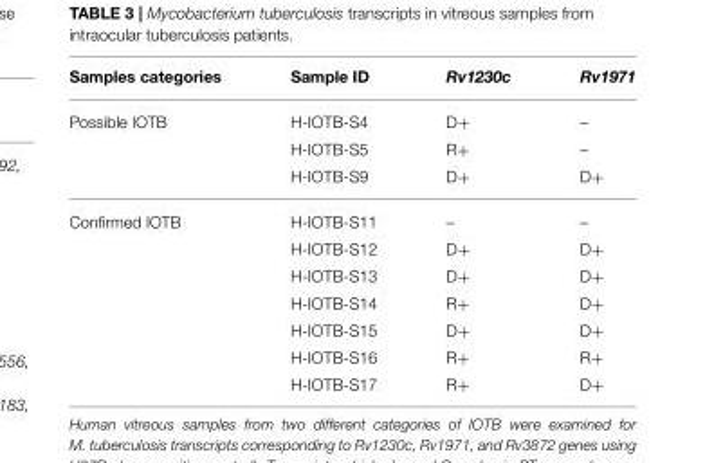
<table><thead><tr><td>Samples categories</td><td>Sample ID</td><td>Rv1230c</td><td>Rv1971</td></tr></thead><tbody><tr><td rowspan="3">Possible IOTB</td><td>H-IOTB-S4</td><td>D+</td><td>–</td></tr><tr><td>H-IOTB-S5</td><td>R+</td><td>–</td></tr><tr><td>H-IOTB-S9</td><td>D+</td><td>D+</td></tr><tr><td rowspan="7">Confirmed IOTB</td><td>H-IOTB-S11</td><td>–</td><td>–</td></tr><tr><td>H-IOTB-S12</td><td>D+</td><td>D+</td></tr><tr><td>H-IOTB-S13</td><td>D+</td><td>D+</td></tr><tr><td>H-IOTB-S14</td><td>R+</td><td>D+</td></tr><tr><td>H-IOTB-S15</td><td>D+</td><td>D+</td></tr><tr><td>H-IOTB-S16</td><td>R+</td><td>R+</td></tr><tr><td>H-IOTB-S17</td><td>R+</td><td>D+</td></tr></tbody></table>